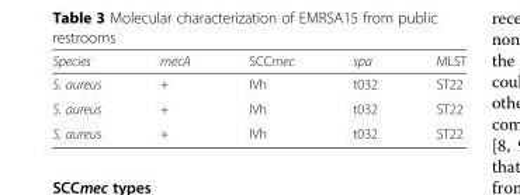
<table><thead><tr><td>Species</td><td>mecA</td><td>SCCmec</td><td>spa</td><td>MLST</td></tr></thead><tbody><tr><td>S. aureus</td><td>+</td><td>IVh</td><td>t032</td><td>ST22</td></tr><tr><td>S. aureus</td><td>+</td><td>IVh</td><td>t032</td><td>ST22</td></tr><tr><td>S. aureus</td><td>+</td><td>IVh</td><td>t032</td><td>ST22</td></tr></tbody></table>